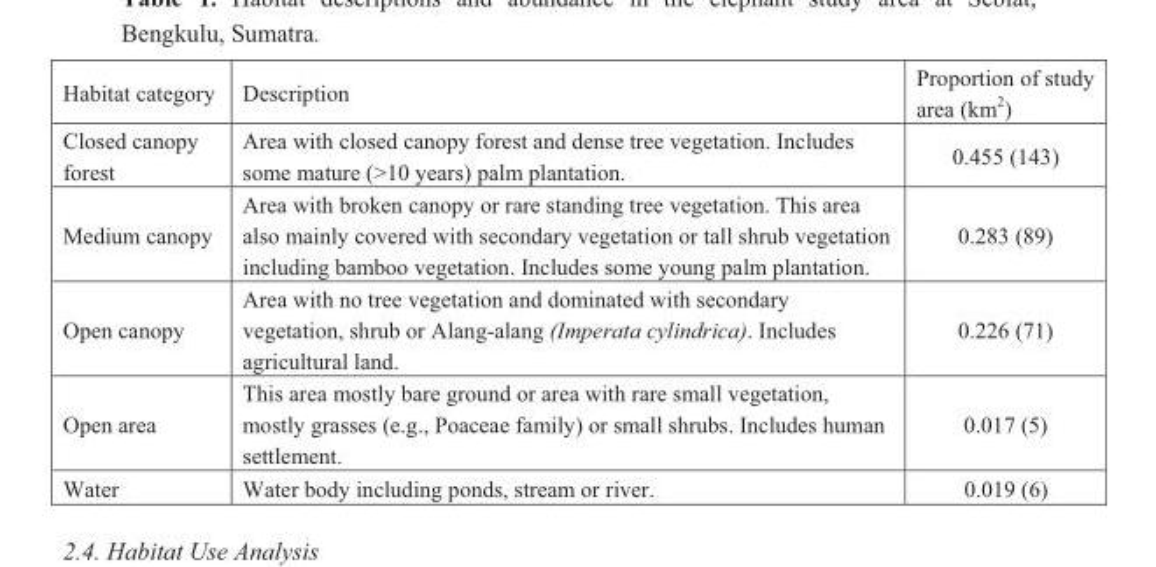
<table><tbody><tr><td>Habitat category</td><td>Description</td><td>Proportion of study area (km<sup>2</sup>)</td></tr><tr><td>Closed canopy forest</td><td>Area with closed canopy forest and dense tree vegetation. Includes some mature (&gt;10 years) palm plantation.</td><td>0.455 (143)</td></tr><tr><td>Medium canopy</td><td>Area with broken canopy or rare standing tree vegetation. This area also mainly covered with secondary vegetation or tall shrub vegetation including bamboo vegetation. Includes some young palm plantation.</td><td>0.283 (89)</td></tr><tr><td>Open canopy</td><td>Area with no tree vegetation and dominated with secondary vegetation, shrub or Alang-alang (Imperata cylindrica). Includes agricultural land.</td><td>0.226 (71)</td></tr><tr><td>Open area</td><td>This area mostly bare ground or area with rare small vegetation, mostly grasses (e.g., Poaceae family) or small shrubs. Includes human settlement.</td><td>0.017 (5)</td></tr><tr><td>Water</td><td>Water body including ponds, stream or river.</td><td>0.019 (6)</td></tr></tbody></table>